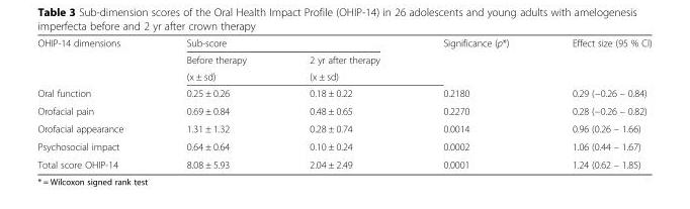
<table><thead><tr><td rowspan="3">OHIP-14 dimensions</td><td colspan="2">Sub-score</td><td rowspan="3">Significance (p*)</td><td rowspan="3">Effect size (95 % CI)</td></tr><tr><td rowspan="2">Before therapy (x ± sd)</td><td rowspan="2">2 yr after therapy (x ± sd)</td></tr><tr></tr></thead><tbody><tr><td>Oral function</td><td>0.25 ± 0.26</td><td>0.18 ± 0.22</td><td>0.2180</td><td>0.29 (−0.26 – 0.84)</td></tr><tr><td>Orofacial pain</td><td>0.69 ± 0.84</td><td>0.48 ± 0.65</td><td>0.2270</td><td>0.28 (−0.26 – 0.82)</td></tr><tr><td>Orofacial appearance</td><td>1.31 ± 1.32</td><td>0.28 ± 0.74</td><td>0.0014</td><td>0.96 (0.26 – 1.66)</td></tr><tr><td>Psychosocial impact</td><td>0.64 ± 0.64</td><td>0.10 ± 0.24</td><td>0.0002</td><td>1.06 (0.44 – 1.67)</td></tr><tr><td>Total score OHIP-14</td><td>8.08 ± 5.93</td><td>2.04 ± 2.49</td><td>0.0001</td><td>1.24 (0.62 – 1.85)</td></tr></tbody></table>